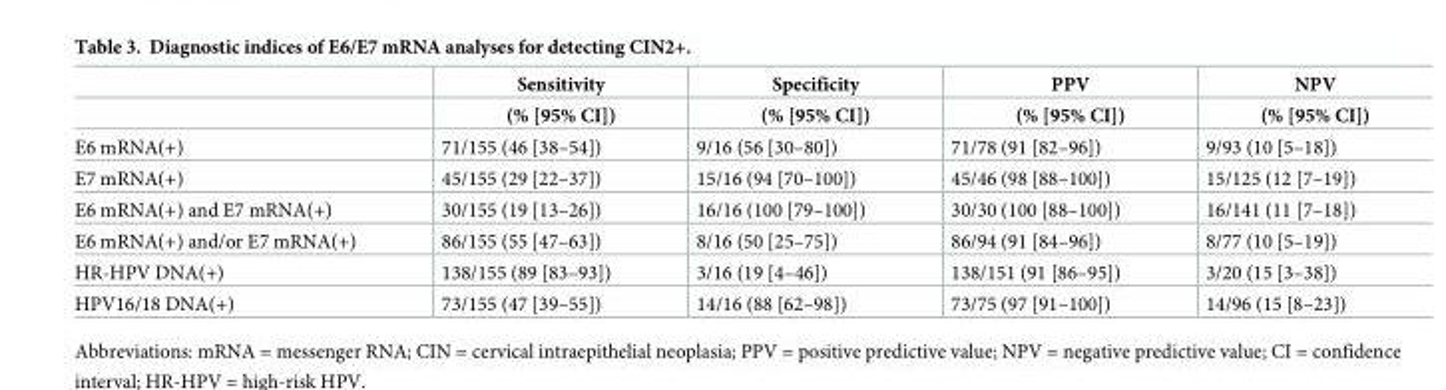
<table><thead><tr><td rowspan="2"></td><td rowspan="2">Sensitivity (% [95% CI])</td><td rowspan="2">Specificity (% [95% CI])</td><td rowspan="2">PPV (% [95% CI])</td><td rowspan="2">NPV (% [95% CI])</td></tr><tr></tr></thead><tbody><tr><td>E6 mRNA(+)</td><td>71/155 (46 [38–54])</td><td>9/16 (56 [30–80])</td><td>71/78 (91 [82–96])</td><td>9/93 (10 [5–18])</td></tr><tr><td>E7 mRNA(+)</td><td>45/155 (29 [22–37])</td><td>15/16 (94 [70–100])</td><td>45/46 (98 [88–100])</td><td>15/125 (12 [7–19])</td></tr><tr><td>E6 mRNA(+) and E7 mRNA(+)</td><td>30/155 (19 [13–26])</td><td>16/16 (100 [79–100])</td><td>30/30 (100 [88–100])</td><td>16/141 (11 [7–18])</td></tr><tr><td>E6 mRNA(+) and/or E7 mRNA(+)</td><td>86/155 (55 [47–63])</td><td>8/16 (50 [25–75])</td><td>86/94 (91 [84–96])</td><td>8/77 (10 [5–19])</td></tr><tr><td>HR-HPV DNA(+)</td><td>138/155 (89 [83–93])</td><td>3/16 (19 [4–46])</td><td>138/151 (91 [86–95])</td><td>3/20 (15 [3–38])</td></tr><tr><td>HPV16/18 DNA(+)</td><td>73/155 (47 [39–55])</td><td>14/16 (88 [62–98])</td><td>73/75 (97 [91–100])</td><td>14/96 (15 [8–23])</td></tr></tbody></table>